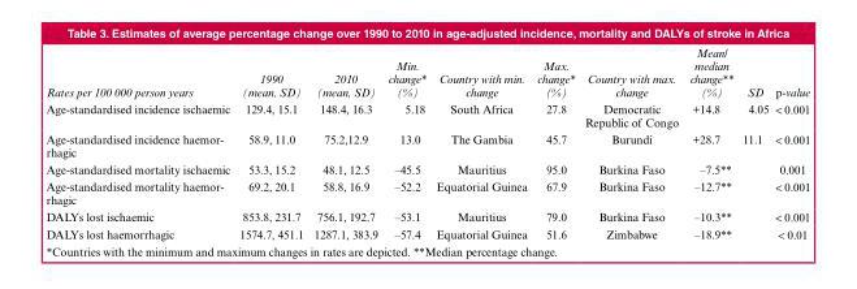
<table><thead><tr><td>Rates per 100 000 person years</td><td>1990 (mean, SD)</td><td>2010 (mean, SD)</td><td>Min. change* (%)</td><td>Country with min. change</td><td>Max. change* (%)</td><td>Country with max. change</td><td>Mean/ median change** (%)</td><td>SD</td><td>p-value</td></tr></thead><tbody><tr><td>Age-standardised incidence ischaemic</td><td>129.4, 15.1</td><td>148.4, 16.3</td><td>5.18</td><td>South Africa</td><td>27.8</td><td>Democratic Republic of Congo</td><td>+14.8</td><td>4.05</td><td>&lt; 0.001</td></tr><tr><td>Age-standardised incidence haemor- rhagic</td><td>58.9, 11.0</td><td>75.2,12.9</td><td>13.0</td><td>The Gambia</td><td>45.7</td><td>Burundi</td><td>+28.7</td><td>11.1</td><td>&lt; 0.001</td></tr><tr><td>Age-standardised mortality ischaemic</td><td>53.3, 15.2</td><td>48.1, 12.5</td><td>–45.5</td><td>Mauritius</td><td>95.0</td><td>Burkina Faso</td><td>–7.5**</td><td></td><td>0.001</td></tr><tr><td>Age-standardised mortality haemor- rhagic</td><td>69.2, 20.1</td><td>58.8, 16.9</td><td>–52.2</td><td>Equatorial Guinea</td><td>67.9</td><td>Burkina Faso</td><td>–12.7**</td><td></td><td>&lt; 0.001</td></tr><tr><td>DALYs lost ischaemic</td><td>853.8, 231.7</td><td>756.1, 192.7</td><td>–53.1</td><td>Mauritius</td><td>79.0</td><td>Burkina Faso</td><td>–10.3**</td><td></td><td>&lt; 0.001</td></tr><tr><td>DALYs lost haemorrhagic</td><td>1574.7, 451.1</td><td>1287.1, 383.9</td><td>–57.4</td><td>Equatorial Guinea</td><td>51.6</td><td>Zimbabwe</td><td>–18.9**</td><td></td><td>&lt; 0.01</td></tr></tbody></table>